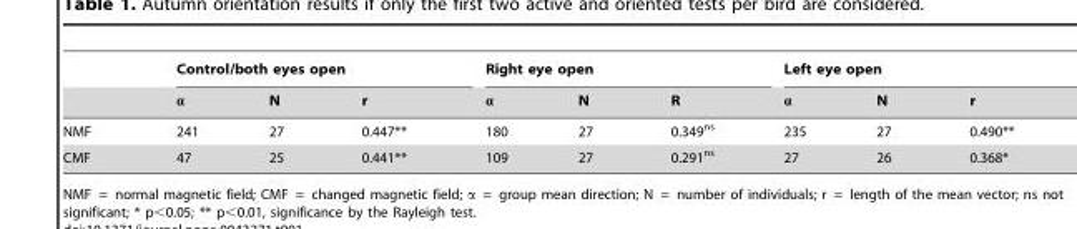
<table><thead><tr><td rowspan="2"></td><td colspan="3">Control/both eyes open</td><td colspan="3">Right eye open</td><td colspan="3">Left eye open</td></tr><tr><td>α</td><td>N</td><td>r</td><td>α</td><td>N</td><td>R</td><td>α</td><td>N</td><td>r</td></tr></thead><tbody><tr><td>NMF</td><td>241</td><td>27</td><td>0.447**</td><td>180</td><td>27</td><td>0.349<sup>ns</sup></td><td>235</td><td>27</td><td>0.490**</td></tr><tr><td>CMF</td><td>47</td><td>25</td><td>0.441**</td><td>109</td><td>27</td><td>0.291<sup>ns</sup></td><td>27</td><td>26</td><td>0.368*</td></tr></tbody></table>